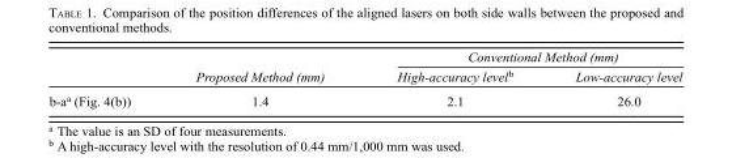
<table><thead><tr><td rowspan="2"></td><td rowspan="2">Proposed Method (mm)</td><td colspan="2">Conventional Method (mm)</td></tr><tr><td>High-accuracy level<sup>b</sup></td><td>Low-accuracy level</td></tr></thead><tbody><tr><td>b-a<sup>a</sup> (Fig. 4(b))</td><td>1.4</td><td>2.1</td><td>26.0</td></tr></tbody></table>